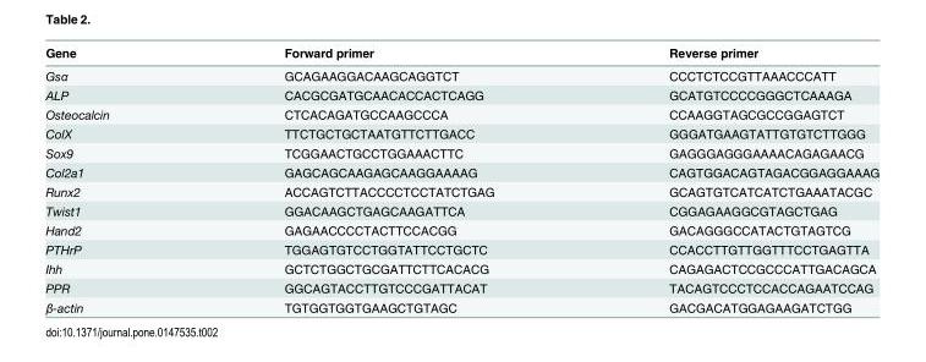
<table><thead><tr><td>Gene</td><td>Forward primer</td><td>Reverse primer</td></tr></thead><tbody><tr><td>Gsα</td><td>GCAGAAGGACAAGCAGGTCT</td><td>CCCTCTCCGTTAAACCCATT</td></tr><tr><td>ALP</td><td>CACGCGATGCAACACCACTCAGG</td><td>GCATGTCCCCGGGCTCAAAGA</td></tr><tr><td>Osteocalcin</td><td>CTCACAGATGCCAAGCCCA</td><td>CCAAGGTAGCGCCGGAGTCT</td></tr><tr><td>ColX</td><td>TTCTGCTGCTAATGTTCTTGACC</td><td>GGGATGAAGTATTGTGTCTTGGG</td></tr><tr><td>Sox9</td><td>TCGGAACTGCCTGGAAACTTC</td><td>GAGGGAGGGAAAACAGAGAACG</td></tr><tr><td>Col2a1</td><td>GAGCAGCAAGAGCAAGGAAAAG</td><td>CAGTGGACAGTAGACGGAGGAAAG</td></tr><tr><td>Runx2</td><td>ACCAGTCTTACCCCTCCTATCTGAG</td><td>GCAGTGTCATCATCTGAAATACGC</td></tr><tr><td>Twist1</td><td>GGACAAGCTGAGCAAGATTCA</td><td>CGGAGAAGGCGTAGCTGAG</td></tr><tr><td>Hand2</td><td>GAGAACCCCTACTTCCACGG</td><td>GACAGGGCCATACTGTAGTCG</td></tr><tr><td>PTHrP</td><td>TGGAGTGTCCTGGTATTCCTGCTC</td><td>CCACCTTGTTGGTTTCCTGAGTTA</td></tr><tr><td>Ihh</td><td>GCTCTGGCTGCGATTCTTCACACG</td><td>CAGAGACTCCGCCCATTGACAGCA</td></tr><tr><td>PPR</td><td>GGCAGTACCTTGTCCCGATTACAT</td><td>TACAGTCCCTCCACCAGAATCCAG</td></tr><tr><td>β-actin</td><td>TGTGGTGGTGAAGCTGTAGC</td><td>GACGACATGGAGAAGATCTGG</td></tr></tbody></table>